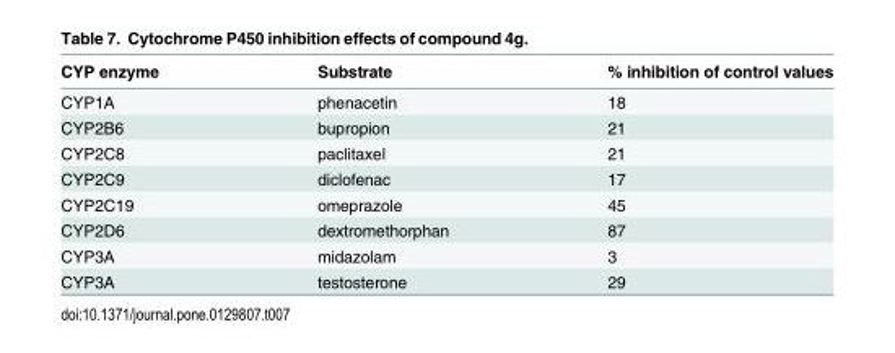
<table><thead><tr><td>CYP enzyme</td><td>Substrate</td><td>% inhibition of control values</td></tr></thead><tbody><tr><td>CYP1A</td><td>phenacetin</td><td>18</td></tr><tr><td>CYP2B6</td><td>bupropion</td><td>21</td></tr><tr><td>CYP2C8</td><td>paclitaxel</td><td>21</td></tr><tr><td>CYP2C9</td><td>diclofenac</td><td>17</td></tr><tr><td>CYP2C19</td><td>omeprazole</td><td>45</td></tr><tr><td>CYP2D6</td><td>dextromethorphan</td><td>87</td></tr><tr><td>CYP3A</td><td>midazolam</td><td>3</td></tr><tr><td>CYP3A</td><td>testosterone</td><td>29</td></tr></tbody></table>